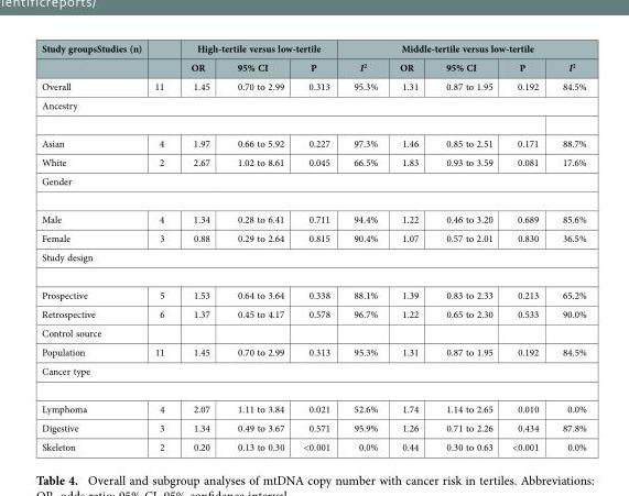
<table><thead><tr><td rowspan="2">Study groupsStudies (n)</td><td rowspan="2"></td><td colspan="3">High-tertile versus low-tertile</td><td colspan="5">Middle-tertile versus low-tertile</td></tr><tr><td>OR</td><td>95% CI</td><td>P</td><td>I<sup>2</sup></td><td>OR</td><td>95% CI</td><td>P</td><td>I<sup>2</sup></td></tr></thead><tbody><tr><td>Overall</td><td>11</td><td>1.45</td><td>0.70 to 2.99</td><td>0.313</td><td>95.3%</td><td>1.31</td><td>0.87 to 1.95</td><td>0.192</td><td>84.5%</td></tr><tr><td colspan="10">Ancestry</td></tr><tr><td>Asian</td><td>4</td><td>1.97</td><td>0.66 to 5.92</td><td>0.227</td><td>97.3%</td><td>1.46</td><td>0.85 to 2.51</td><td>0.171</td><td>88.7%</td></tr><tr><td>White</td><td>2</td><td>2.67</td><td>1.02 to 8.61</td><td>0.045</td><td>66.5%</td><td>1.83</td><td>0.93 to 3.59</td><td>0.081</td><td>17.6%</td></tr><tr><td colspan="10">Gender</td></tr><tr><td>Male</td><td>4</td><td>1.34</td><td>0.28 to 6.41</td><td>0.711</td><td>94.4%</td><td>1.22</td><td>0.46 to 3.20</td><td>0.689</td><td>85.6%</td></tr><tr><td>Female</td><td>3</td><td>0.88</td><td>0.29 to 2.64</td><td>0.815</td><td>90.4%</td><td>1.07</td><td>0.57 to 2.01</td><td>0.830</td><td>36.5%</td></tr><tr><td colspan="10">Study design</td></tr><tr><td>Prospective</td><td>5</td><td>1.53</td><td>0.64 to 3.64</td><td>0.338</td><td>88.1%</td><td>1.39</td><td>0.83 to 2.33</td><td>0.213</td><td>65.2%</td></tr><tr><td>Retrospective</td><td>6</td><td>1.37</td><td>0.45 to 4.17</td><td>0.578</td><td>96.7%</td><td>1.22</td><td>0.65 to 2.30</td><td>0.533</td><td>90.0%</td></tr><tr><td colspan="10">Control source</td></tr><tr><td>Population</td><td>11</td><td>1.45</td><td>0.70 to 2.99</td><td>0.313</td><td>95.3%</td><td>1.31</td><td>0.87 to 1.95</td><td>0.192</td><td>84.5%</td></tr><tr><td colspan="10">Cancer type</td></tr><tr><td>Lymphoma</td><td>4</td><td>2.07</td><td>1.11 to 3.84</td><td>0.021</td><td>52.6%</td><td>1.74</td><td>1.14 to 2.65</td><td>0.010</td><td>0.0%</td></tr><tr><td>Digestive</td><td>3</td><td>1.34</td><td>0.49 to 3.67</td><td>0.571</td><td>95.9%</td><td>1.26</td><td>0.71 to 2.26</td><td>0.434</td><td>87.8%</td></tr><tr><td>Skeleton</td><td>2</td><td>0.20</td><td>0.13 to 0.30</td><td>&lt;0.001</td><td>0.0%</td><td>0.44</td><td>0.30 to 0.63</td><td>&lt;0.001</td><td>0.0%</td></tr></tbody></table>